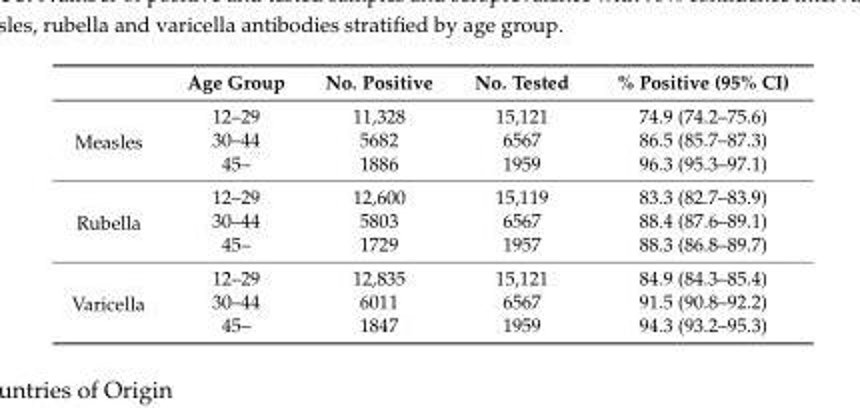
<table><thead><tr><td></td><td>Age Group</td><td>No. Positive</td><td>No. Tested</td><td>% Positive (95% CI)</td></tr></thead><tbody><tr><td rowspan="3">Measles</td><td>12–29</td><td>11,328</td><td>15,121</td><td>74.9 (74.2–75.6)</td></tr><tr><td>30–44</td><td>5682</td><td>6567</td><td>86.5 (85.7–87.3)</td></tr><tr><td>45–</td><td>1886</td><td>1959</td><td>96.3 (95.3–97.1)</td></tr><tr><td rowspan="3">Rubella</td><td>12–29</td><td>12,600</td><td>15,119</td><td>83.3 (82.7–83.9)</td></tr><tr><td>30–44</td><td>5803</td><td>6567</td><td>88.4 (87.6–89.1)</td></tr><tr><td>45–</td><td>1729</td><td>1957</td><td>88.3 (86.8–89.7)</td></tr><tr><td rowspan="3">Varicella</td><td>12–29</td><td>12,835</td><td>15,121</td><td>84.9 (84.3–85.4)</td></tr><tr><td>30–44</td><td>6011</td><td>6567</td><td>91.5 (90.8–92.2)</td></tr><tr><td>45–</td><td>1847</td><td>1959</td><td>94.3 (93.2–95.3)</td></tr></tbody></table>